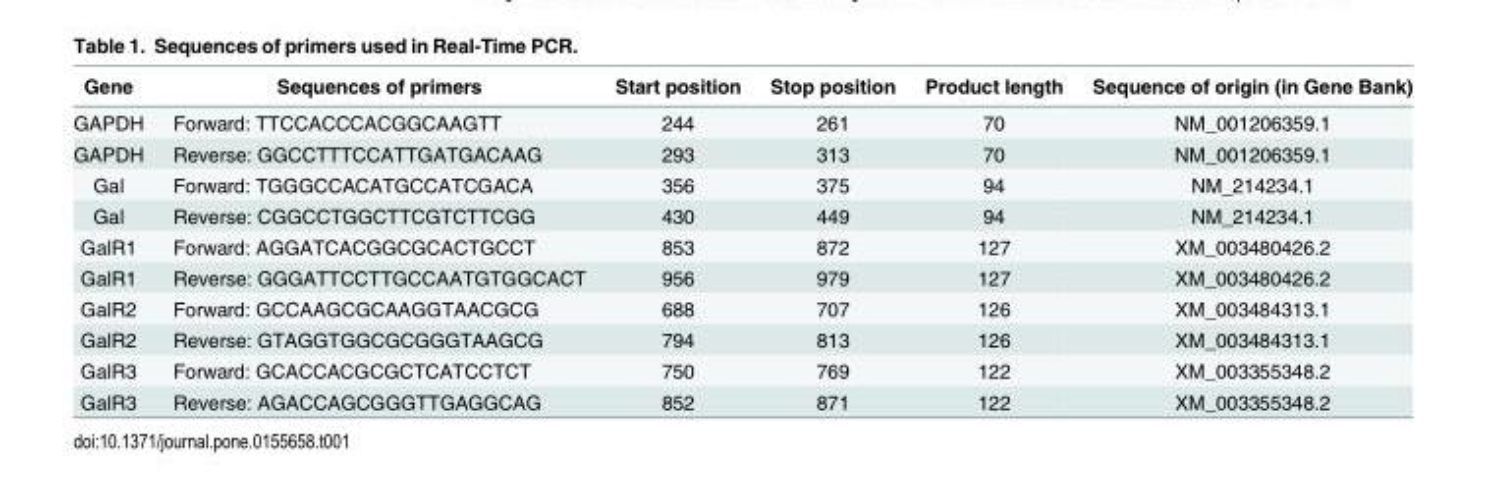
<table><thead><tr><td>Gene</td><td>Sequences of primers</td><td>Start position</td><td>Stop position</td><td>Product length</td><td>Sequence of origin (in Gene Bank)</td></tr></thead><tbody><tr><td>GAPDH</td><td>Forward: TTCCACCCACGGCAAGTT</td><td>244</td><td>261</td><td>70</td><td>NM_001206359.1</td></tr><tr><td>GAPDH</td><td>Reverse: GGCCTTTCCATTGATGACAAG</td><td>293</td><td>313</td><td>70</td><td>NM_001206359.1</td></tr><tr><td>Gal</td><td>Forward: TGGGCCACATGCCATCGACA</td><td>356</td><td>375</td><td>94</td><td>NM_214234.1</td></tr><tr><td>Gal</td><td>Reverse: CGGCCTGGCTTCGTCTTCGG</td><td>430</td><td>449</td><td>94</td><td>NM_214234.1</td></tr><tr><td>GalR1</td><td>Forward: AGGATCACGGCGCACTGCCT</td><td>853</td><td>872</td><td>127</td><td>XM_003480426.2</td></tr><tr><td>GalR1</td><td>Reverse: GGGATTCCTTGCCAATGTGGCACT</td><td>956</td><td>979</td><td>127</td><td>XM_003480426.2</td></tr><tr><td>GalR2</td><td>Forward: GCCAAGCGCAAGGTAACGCG</td><td>688</td><td>707</td><td>126</td><td>XM_003484313.1</td></tr><tr><td>GalR2</td><td>Reverse: GTAGGTGGCGCGGGTAAGCG</td><td>794</td><td>813</td><td>126</td><td>XM_003484313.1</td></tr><tr><td>GalR3</td><td>Forward: GCACCACGCGCTCATCCTCT</td><td>750</td><td>769</td><td>122</td><td>XM_003355348.2</td></tr><tr><td>GalR3</td><td>Reverse: AGACCAGCGGGTTGAGGCAG</td><td>852</td><td>871</td><td>122</td><td>XM_003355348.2</td></tr></tbody></table>